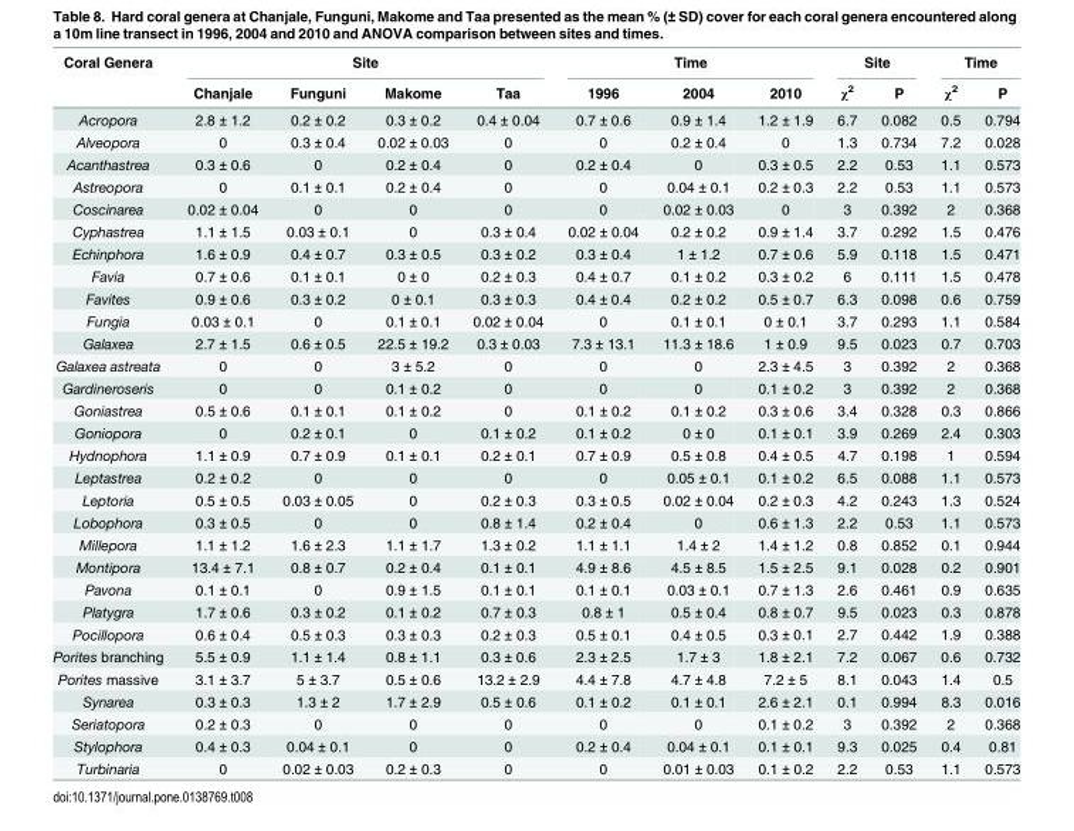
<table><thead><tr><td rowspan="2">Coral Genera</td><td colspan="4">Site</td><td colspan="3">Time</td><td colspan="2">Site</td><td colspan="2">Time</td></tr><tr><td>Chanjale</td><td>Funguni</td><td>Makome</td><td>Taa</td><td>1996</td><td>2004</td><td>2010</td><td>χ<sup>2</sup></td><td>P</td><td>χ<sup>2</sup></td><td>P</td></tr></thead><tbody><tr><td>Acropora</td><td>2.8 ± 1.2</td><td>0.2 ± 0.2</td><td>0.3 ± 0.2</td><td>0.4 ± 0.04</td><td>0.7 ± 0.6</td><td>0.9 ± 1.4</td><td>1.2 ± 1.9</td><td>6.7</td><td>0.082</td><td>0.5</td><td>0.794</td></tr><tr><td>Alveopora</td><td>0</td><td>0.3 ± 0.4</td><td>0.02 ± 0.03</td><td>0</td><td>0</td><td>0.2 ± 0.4</td><td>0</td><td>1.3</td><td>0.734</td><td>7.2</td><td>0.028</td></tr><tr><td>Acanthastrea</td><td>0.3 ± 0.6</td><td>0</td><td>0.2 ± 0.4</td><td>0</td><td>0.2 ± 0.4</td><td>0</td><td>0.3 ± 0.5</td><td>2.2</td><td>0.53</td><td>1.1</td><td>0.573</td></tr><tr><td>Astreopora</td><td>0</td><td>0.1 ± 0.1</td><td>0.2 ± 0.4</td><td>0</td><td>0</td><td>0.04 ± 0.1</td><td>0.2 ± 0.3</td><td>2.2</td><td>0.53</td><td>1.1</td><td>0.573</td></tr><tr><td>Coscinarea</td><td>0.02 ± 0.04</td><td>0</td><td>0</td><td>0</td><td>0</td><td>0.02 ± 0.03</td><td>0</td><td>3</td><td>0.392</td><td>2</td><td>0.368</td></tr><tr><td>Cyphastrea</td><td>1.1 ± 1.5</td><td>0.03 ± 0.1</td><td>0</td><td>0.3 ± 0.4</td><td>0.02 ± 0.04</td><td>0.2 ± 0.2</td><td>0.9 ± 1.4</td><td>3.7</td><td>0.292</td><td>1.5</td><td>0.476</td></tr><tr><td>Echinphora</td><td>1.6 ± 0.9</td><td>0.4 ± 0.7</td><td>0.3 ± 0.5</td><td>0.3 ± 0.2</td><td>0.3 ± 0.4</td><td>1 ± 1.2</td><td>0.7 ± 0.6</td><td>5.9</td><td>0.118</td><td>1.5</td><td>0.471</td></tr><tr><td>Favia</td><td>0.7 ± 0.6</td><td>0.1 ± 0.1</td><td>0 ± 0</td><td>0.2 ± 0.3</td><td>0.4 ± 0.7</td><td>0.1 ± 0.2</td><td>0.3 ± 0.2</td><td>6</td><td>0.111</td><td>1.5</td><td>0.478</td></tr><tr><td>Favites</td><td>0.9 ± 0.6</td><td>0.3 ± 0.2</td><td>0 ± 0.1</td><td>0.3 ± 0.3</td><td>0.4 ± 0.4</td><td>0.2 ± 0.2</td><td>0.5 ± 0.7</td><td>6.3</td><td>0.098</td><td>0.6</td><td>0.759</td></tr><tr><td>Fungia</td><td>0.03 ± 0.1</td><td>0</td><td>0.1 ± 0.1</td><td>0.02 ± 0.04</td><td>0</td><td>0.1 ± 0.1</td><td>0 ± 0.1</td><td>3.7</td><td>0.293</td><td>1.1</td><td>0.584</td></tr><tr><td>Galaxea</td><td>2.7 ± 1.5</td><td>0.6 ± 0.5</td><td>22.5 ± 19.2</td><td>0.3 ± 0.03</td><td>7.3 ± 13.1</td><td>11.3 ± 18.6</td><td>1 ± 0.9</td><td>9.5</td><td>0.023</td><td>0.7</td><td>0.703</td></tr><tr><td>Galaxea astreata</td><td>0</td><td>0</td><td>3 ± 5.2</td><td>0</td><td>0</td><td>0</td><td>2.3 ± 4.5</td><td>3</td><td>0.392</td><td>2</td><td>0.368</td></tr><tr><td>Gardineroseris</td><td>0</td><td>0</td><td>0.1 ± 0.2</td><td>0</td><td>0</td><td>0</td><td>0.1 ± 0.2</td><td>3</td><td>0.392</td><td>2</td><td>0.368</td></tr><tr><td>Goniastrea</td><td>0.5 ± 0.6</td><td>0.1 ± 0.1</td><td>0.1 ± 0.2</td><td>0</td><td>0.1 ± 0.2</td><td>0.1 ± 0.2</td><td>0.3 ± 0.6</td><td>3.4</td><td>0.328</td><td>0.3</td><td>0.866</td></tr><tr><td>Goniopora</td><td>0</td><td>0.2 ± 0.1</td><td>0</td><td>0.1 ± 0.2</td><td>0.1 ± 0.2</td><td>0 ± 0</td><td>0.1 ± 0.1</td><td>3.9</td><td>0.269</td><td>2.4</td><td>0.303</td></tr><tr><td>Hydnophora</td><td>1.1 ± 0.9</td><td>0.7 ± 0.9</td><td>0.1 ± 0.1</td><td>0.2 ± 0.1</td><td>0.7 ± 0.9</td><td>0.5 ± 0.8</td><td>0.4 ± 0.5</td><td>4.7</td><td>0.198</td><td>1</td><td>0.594</td></tr><tr><td>Leptastrea</td><td>0.2 ± 0.2</td><td>0</td><td>0</td><td>0</td><td>0</td><td>0.05 ± 0.1</td><td>0.1 ± 0.2</td><td>6.5</td><td>0.088</td><td>1.1</td><td>0.573</td></tr><tr><td>Leptoria</td><td>0.5 ± 0.5</td><td>0.03 ± 0.05</td><td>0</td><td>0.2 ± 0.3</td><td>0.3 ± 0.5</td><td>0.02 ± 0.04</td><td>0.2 ± 0.3</td><td>4.2</td><td>0.243</td><td>1.3</td><td>0.524</td></tr><tr><td>Lobophora</td><td>0.3 ± 0.5</td><td>0</td><td>0</td><td>0.8 ± 1.4</td><td>0.2 ± 0.4</td><td>0</td><td>0.6 ± 1.3</td><td>2.2</td><td>0.53</td><td>1.1</td><td>0.573</td></tr><tr><td>Millepora</td><td>1.1 ± 1.2</td><td>1.6 ± 2.3</td><td>1.1 ± 1.7</td><td>1.3 ± 0.2</td><td>1.1 ± 1.1</td><td>1.4 ± 2</td><td>1.4 ± 1.2</td><td>0.8</td><td>0.852</td><td>0.1</td><td>0.944</td></tr><tr><td>Montipora</td><td>13.4 ± 7.1</td><td>0.8 ± 0.7</td><td>0.2 ± 0.4</td><td>0.1 ± 0.1</td><td>4.9 ± 8.6</td><td>4.5 ± 8.5</td><td>1.5 ± 2.5</td><td>9.1</td><td>0.028</td><td>0.2</td><td>0.901</td></tr><tr><td>Pavona</td><td>0.1 ± 0.1</td><td>0</td><td>0.9 ± 1.5</td><td>0.1 ± 0.1</td><td>0.1 ± 0.1</td><td>0.03 ± 0.1</td><td>0.7 ± 1.3</td><td>2.6</td><td>0.461</td><td>0.9</td><td>0.635</td></tr><tr><td>Platygra</td><td>1.7 ± 0.6</td><td>0.3 ± 0.2</td><td>0.1 ± 0.2</td><td>0.7 ± 0.3</td><td>0.8 ± 1</td><td>0.5 ± 0.4</td><td>0.8 ± 0.7</td><td>9.5</td><td>0.023</td><td>0.3</td><td>0.878</td></tr><tr><td>Pocillopora</td><td>0.6 ± 0.4</td><td>0.5 ± 0.3</td><td>0.3 ± 0.3</td><td>0.2 ± 0.3</td><td>0.5 ± 0.1</td><td>0.4 ± 0.5</td><td>0.3 ± 0.1</td><td>2.7</td><td>0.442</td><td>1.9</td><td>0.388</td></tr><tr><td>Porites branching</td><td>5.5 ± 0.9</td><td>1.1 ± 1.4</td><td>0.8 ± 1.1</td><td>0.3 ± 0.6</td><td>2.3 ± 2.5</td><td>1.7 ± 3</td><td>1.8 ± 2.1</td><td>7.2</td><td>0.067</td><td>0.6</td><td>0.732</td></tr><tr><td>Porites massive</td><td>3.1 ± 3.7</td><td>5 ± 3.7</td><td>0.5 ± 0.6</td><td>13.2 ± 2.9</td><td>4.4 ± 7.8</td><td>4.7 ± 4.8</td><td>7.2 ± 5</td><td>8.1</td><td>0.043</td><td>1.4</td><td>0.5</td></tr><tr><td>Synarea</td><td>0.3 ± 0.3</td><td>1.3 ± 2</td><td>1.7 ± 2.9</td><td>0.5 ± 0.6</td><td>0.1 ± 0.2</td><td>0.1 ± 0.1</td><td>2.6 ± 2.1</td><td>0.1</td><td>0.994</td><td>8.3</td><td>0.016</td></tr><tr><td>Seriatopora</td><td>0.2 ± 0.3</td><td>0</td><td>0</td><td>0</td><td>0</td><td>0</td><td>0.1 ± 0.2</td><td>3</td><td>0.392</td><td>2</td><td>0.368</td></tr><tr><td>Stylophora</td><td>0.4 ± 0.3</td><td>0.04 ± 0.1</td><td>0</td><td>0</td><td>0.2 ± 0.4</td><td>0.04 ± 0.1</td><td>0.1 ± 0.1</td><td>9.3</td><td>0.025</td><td>0.4</td><td>0.81</td></tr><tr><td>Turbinaria</td><td>0</td><td>0.02 ± 0.03</td><td>0.2 ± 0.3</td><td>0</td><td>0</td><td>0.01 ± 0.03</td><td>0.1 ± 0.2</td><td>2.2</td><td>0.53</td><td>1.1</td><td>0.573</td></tr></tbody></table>